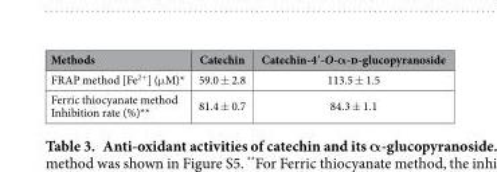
<table><thead><tr><td>Methods</td><td>Catechin</td><td>Catechin-4′-O-α-d-glucopyranoside</td></tr></thead><tbody><tr><td>FRAP method [Fe<sup>2+</sup>] (μ M)*</td><td>59.0 ± 2.8</td><td>113.5 ± 1.5</td></tr><tr><td>Ferric thiocyanate method Inhibition rate (%)**</td><td>81.4 ± 0.7</td><td>84.3 ± 1.1</td></tr></tbody></table>